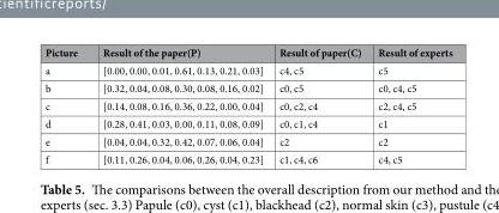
<table><thead><tr><td>Picture</td><td>Result of the paper(P)</td><td>Result of paper(C)</td><td>Result of experts</td></tr></thead><tbody><tr><td>a</td><td>[0.00, 0.00, 0.01, 0.61, 0.13, 0.21, 0.03]</td><td>c4, c5</td><td>c5</td></tr><tr><td>b</td><td>[0.32, 0.04, 0.08, 0.30, 0.08, 0.16, 0.02]</td><td>c0, c5</td><td>c0, c4, c5</td></tr><tr><td>c</td><td>[0.14, 0.08, 0.16, 0.36, 0.22, 0.00, 0.04]</td><td>c0, c2, c4</td><td>c2, c4, c5</td></tr><tr><td>d</td><td>[0.28, 0.41, 0.03, 0.00, 0.11, 0.08, 0.09]</td><td>c0, c1, c4</td><td>c1</td></tr><tr><td>e</td><td>[0.04, 0.04, 0.32, 0.42, 0.07, 0.06, 0.04]</td><td>c2</td><td>c2</td></tr><tr><td>f</td><td>[0.11, 0.26, 0.04, 0.06, 0.26, 0.04, 0.23]</td><td>c1, c4, c6</td><td>c4, c5</td></tr></tbody></table>